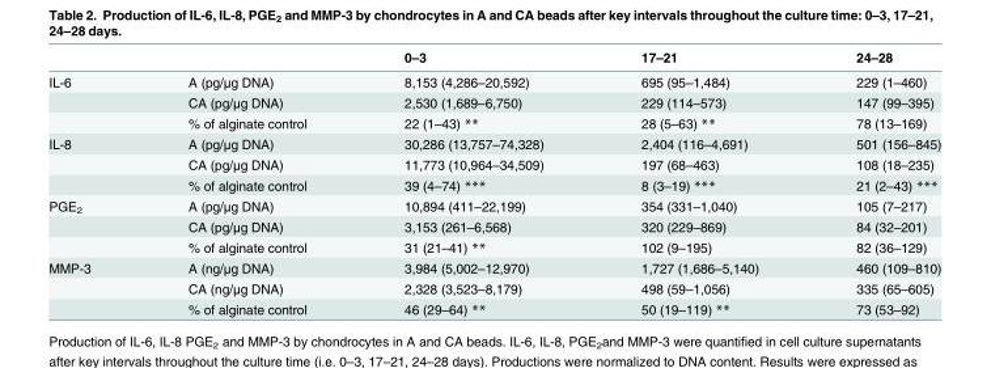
<table><thead><tr><td></td><td></td><td>0–3</td><td>17–21</td><td>24–28</td></tr></thead><tbody><tr><td rowspan="3">IL-6</td><td>A (pg/μg DNA)</td><td>8,153 (4,286–20,592)</td><td>695 (95–1,484)</td><td>229 (1–460)</td></tr><tr><td>CA (pg/μg DNA)</td><td>2,530 (1,689–6,750)</td><td>229 (114–573)</td><td>147 (99–395)</td></tr><tr><td>% of alginate control</td><td>22 (1–43) **</td><td>28 (5–63) **</td><td>78 (13–169)</td></tr><tr><td rowspan="3">IL-8</td><td>A (pg/μg DNA)</td><td>30,286 (13,757–74,328)</td><td>2,404 (116–4,691)</td><td>501 (156–845)</td></tr><tr><td>CA (pg/μg DNA)</td><td>11,773 (10,964–34,509)</td><td>197 (68–463)</td><td>108 (18–235)</td></tr><tr><td>% of alginate control</td><td>39 (4–74) ***</td><td>8 (3–19) ***</td><td>21 (2–43) ***</td></tr><tr><td rowspan="3">PGE<sub>2</sub></td><td>A (pg/μg DNA)</td><td>10,894 (411–22,199)</td><td>354 (331–1,040)</td><td>105 (7–217)</td></tr><tr><td>CA (pg/μg DNA)</td><td>3,153 (261–6,568)</td><td>320 (229–869)</td><td>84 (32–201)</td></tr><tr><td>% of alginate control</td><td>31 (21–41) **</td><td>102 (9–195)</td><td>82 (36–129)</td></tr><tr><td rowspan="3">MMP-3</td><td>A (ng/μg DNA)</td><td>3,984 (5,002–12,970)</td><td>1,727 (1,686–5,140)</td><td>460 (109–810)</td></tr><tr><td>CA (ng/μg DNA)</td><td>2,328 (3,523–8,179)</td><td>498 (59–1,056)</td><td>335 (65–605)</td></tr><tr><td>% of alginate control</td><td>46 (29–64) **</td><td>50 (19–119) **</td><td>73 (53–92)</td></tr></tbody></table>